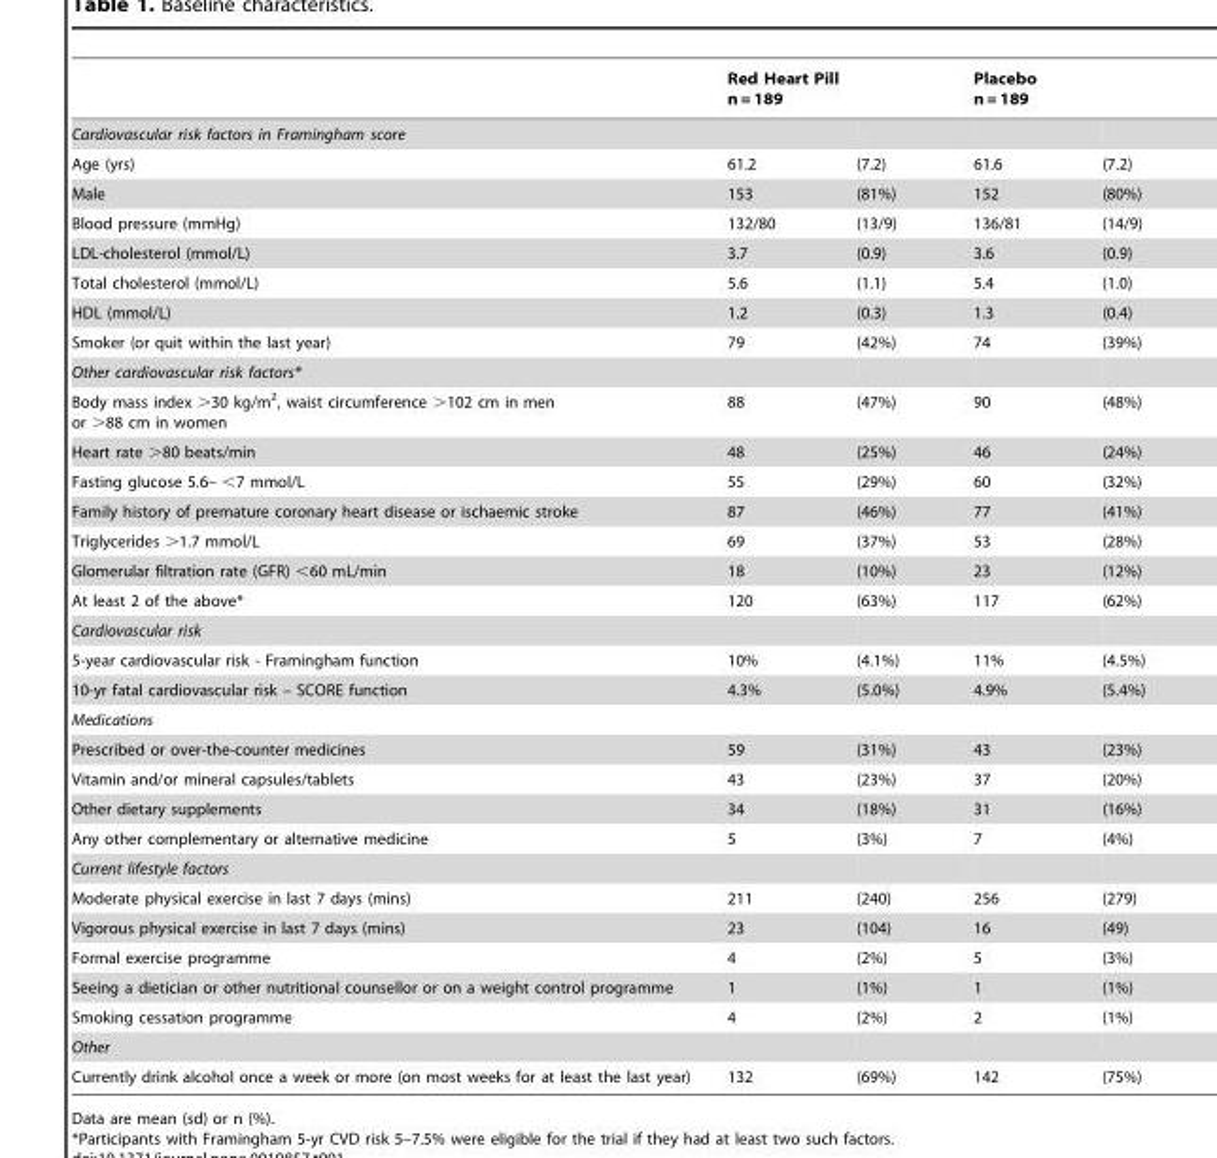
<table><thead><tr><td rowspan="2">Cardiovascular risk factors in Framingham score</td><td colspan="2">Red Heart Pill n = 189</td><td colspan="2">Placebo n = 189</td></tr><tr><td></td><td></td><td></td><td></td></tr></thead><tbody><tr><td>Age (yrs)</td><td>61.2</td><td>(7.2)</td><td>61.6</td><td>(7.2)</td></tr><tr><td>Male</td><td>153</td><td>(81%)</td><td>152</td><td>(80%)</td></tr><tr><td>Blood pressure (mmHg)</td><td>132/80</td><td>(13/9)</td><td>136/81</td><td>(14/9)</td></tr><tr><td>LDL-cholesterol (mmol/L)</td><td>3.7</td><td>(0.9)</td><td>3.6</td><td>(0.9)</td></tr><tr><td>Total cholesterol (mmol/L)</td><td>5.6</td><td>(1.1)</td><td>5.4</td><td>(1.0)</td></tr><tr><td>HDL (mmol/L)</td><td>1.2</td><td>(0.3)</td><td>1.3</td><td>(0.4)</td></tr><tr><td>Smoker (or quit within the last year)</td><td>79</td><td>(42%)</td><td>74</td><td>(39%)</td></tr><tr><td colspan="5">Other cardiovascular risk factors*</td></tr><tr><td>Body mass index &gt;30 kg/m<sup>2</sup>, waist circumference &gt;102 cm in men or &gt;88 cm in women</td><td>88</td><td>(47%)</td><td>90</td><td>(48%)</td></tr><tr><td>Heart rate &gt;80 beats/min</td><td>48</td><td>(25%)</td><td>46</td><td>(24%)</td></tr><tr><td>Fasting glucose 5.6– &lt;7 mmol/L</td><td>55</td><td>(29%)</td><td>60</td><td>(32%)</td></tr><tr><td>Family history of premature coronary heart disease or ischaemic stroke</td><td>87</td><td>(46%)</td><td>77</td><td>(41%)</td></tr><tr><td>Triglycerides &gt;1.7 mmol/L</td><td>69</td><td>(37%)</td><td>53</td><td>(28%)</td></tr><tr><td>Glomerular filtration rate (GFR) &lt;60 mL/min</td><td>18</td><td>(10%)</td><td>23</td><td>(12%)</td></tr><tr><td>At least 2 of the above*</td><td>120</td><td>(63%)</td><td>117</td><td>(62%)</td></tr><tr><td colspan="5">Cardiovascular risk</td></tr><tr><td>5-year cardiovascular risk - Framingham function</td><td>10%</td><td>(4.1%)</td><td>11%</td><td>(4.5%)</td></tr><tr><td>10-yr fatal cardiovascular risk – SCORE function</td><td>4.3%</td><td>(5.0%)</td><td>4.9%</td><td>(5.4%)</td></tr><tr><td colspan="5">Medications</td></tr><tr><td>Prescribed or over-the-counter medicines</td><td>59</td><td>(31%)</td><td>43</td><td>(23%)</td></tr><tr><td>Vitamin and/or mineral capsules/tablets</td><td>43</td><td>(23%)</td><td>37</td><td>(20%)</td></tr><tr><td>Other dietary supplements</td><td>34</td><td>(18%)</td><td>31</td><td>(16%)</td></tr><tr><td>Any other complementary or alternative medicine</td><td>5</td><td>(3%)</td><td>7</td><td>(4%)</td></tr><tr><td colspan="5">Current lifestyle factors</td></tr><tr><td>Moderate physical exercise in last 7 days (mins)</td><td>211</td><td>(240)</td><td>256</td><td>(279)</td></tr><tr><td>Vigorous physical exercise in last 7 days (mins)</td><td>23</td><td>(104)</td><td>16</td><td>(49)</td></tr><tr><td>Formal exercise programme</td><td>4</td><td>(2%)</td><td>5</td><td>(3%)</td></tr><tr><td>Seeing a dietician or other nutritional counsellor or on a weight control programme</td><td>1</td><td>(1%)</td><td>1</td><td>(1%)</td></tr><tr><td>Smoking cessation programme</td><td>4</td><td>(2%)</td><td>2</td><td>(1%)</td></tr><tr><td colspan="5">Other</td></tr><tr><td>Currently drink alcohol once a week or more (on most weeks for at least the last year)</td><td>132</td><td>(69%)</td><td>142</td><td>(75%)</td></tr></tbody></table>